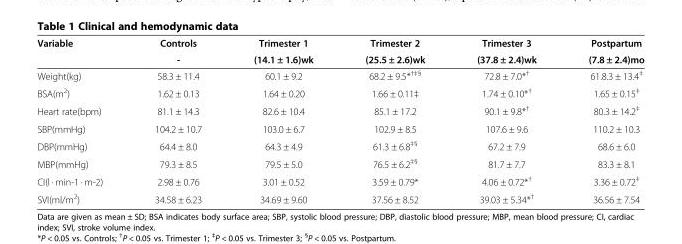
<table><thead><tr><td rowspan="2">Variable</td><td rowspan="2">Controls -</td><td rowspan="2">Trimester 1 (14.1 ± 1.6)wk</td><td rowspan="2">Trimester 2 (25.5 ± 2.6)wk</td><td rowspan="2">Trimester 3 (37.8 ± 2.4)wk</td><td rowspan="2">Postpartum (7.8 ± 2.4)mo</td></tr><tr></tr></thead><tbody><tr><td>Weight(kg)</td><td>58.3 ± 11.4</td><td>60.1 ± 9.2</td><td>68.2 ± 9.5*<sup>†‡§</sup></td><td>72.8 ± 7.0*<sup>†</sup></td><td>61.8.3 ± 13.4<sup>‡</sup></td></tr><tr><td>BSA(m<sup>2</sup>)</td><td>1.62 ± 0.13</td><td>1.64 ± 0.20</td><td>1.66 ± 0.11‡</td><td>1.74 ± 0.10*<sup>†</sup></td><td>1.65 ± 0.15<sup>‡</sup></td></tr><tr><td>Heart rate(bpm)</td><td>81.1 ± 14.3</td><td>82.6 ± 10.4</td><td>85.1 ± 17.2</td><td>90.1 ± 9.8*<sup>†</sup></td><td>80.3 ± 14.2<sup>‡</sup></td></tr><tr><td>SBP(mmHg)</td><td>104.2 ± 10.7</td><td>103.0 ± 6.7</td><td>102.9 ± 8.5</td><td>107.6 ± 9.6</td><td>110.2 ± 10.3</td></tr><tr><td>DBP(mmHg)</td><td>64.4 ± 8.0</td><td>64.3 ± 4.9</td><td>61.3 ± 6.8<sup>‡§</sup></td><td>67.2 ± 7.9</td><td>68.6 ± 6.0</td></tr><tr><td>MBP(mmHg)</td><td>79.3 ± 8.5</td><td>79.5 ± 5.0</td><td>76.5 ± 6.2<sup>‡§</sup></td><td>81.7 ± 7.7</td><td>83.3 ± 8.1</td></tr><tr><td>CI(l · min-1 · m-2)</td><td>2.98 ± 0.76</td><td>3.01 ± 0.52</td><td>3.59 ± 0.79*</td><td>4.06 ± 0.72*<sup>†</sup></td><td>3.36 ± 0.72<sup>‡</sup></td></tr><tr><td>SVI(ml/m<sup>2</sup>)</td><td>34.58 ± 6.23</td><td>34.69 ± 9.60</td><td>37.56 ± 8.52</td><td>39.03 ± 5.34*<sup>†</sup></td><td>36.56 ± 7.54</td></tr></tbody></table>